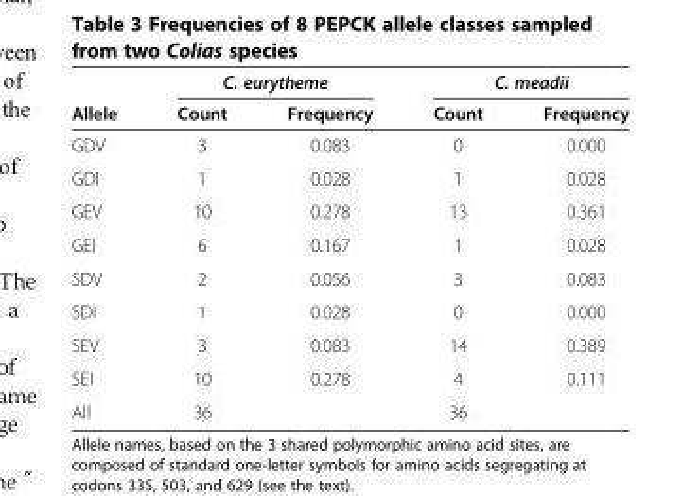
<table><thead><tr><td rowspan="2">Allele</td><td colspan="2">C. eurytheme</td><td colspan="2">C. meadii</td></tr><tr><td>Count</td><td>Frequency</td><td>Count</td><td>Frequency</td></tr></thead><tbody><tr><td>GDV</td><td>3</td><td>0.083</td><td>0</td><td>0.000</td></tr><tr><td>GDI</td><td>1</td><td>0.028</td><td>1</td><td>0.028</td></tr><tr><td>GEV</td><td>10</td><td>0.278</td><td>13</td><td>0.361</td></tr><tr><td>GEI</td><td>6</td><td>0.167</td><td>1</td><td>0.028</td></tr><tr><td>SDV</td><td>2</td><td>0.056</td><td>3</td><td>0.083</td></tr><tr><td>SDI</td><td>1</td><td>0.028</td><td>0</td><td>0.000</td></tr><tr><td>SEV</td><td>3</td><td>0.083</td><td>14</td><td>0.389</td></tr><tr><td>SEI</td><td>10</td><td>0.278</td><td>4</td><td>0.111</td></tr><tr><td>All</td><td>36</td><td></td><td>36</td><td></td></tr></tbody></table>